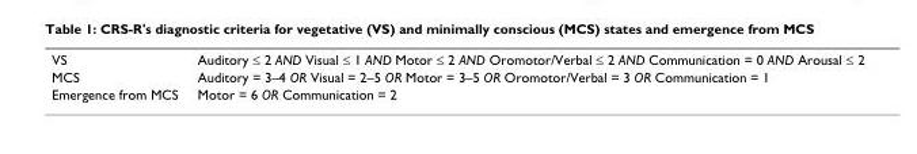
<table><tbody><tr><td>VS</td><td>Auditory ≤ 2 AND Visual ≤ 1 AND Motor ≤ 2 AND Oromotor/Verbal ≤ 2 AND Communication = 0 AND Arousal ≤ 2</td></tr><tr><td>MCS</td><td>Auditory = 3–4 OR Visual = 2–5 OR Motor = 3–5 OR Oromotor/Verbal = 3 OR Communication = 1</td></tr><tr><td>Emergence from MCS</td><td>Motor = 6 OR Communication = 2</td></tr></tbody></table>